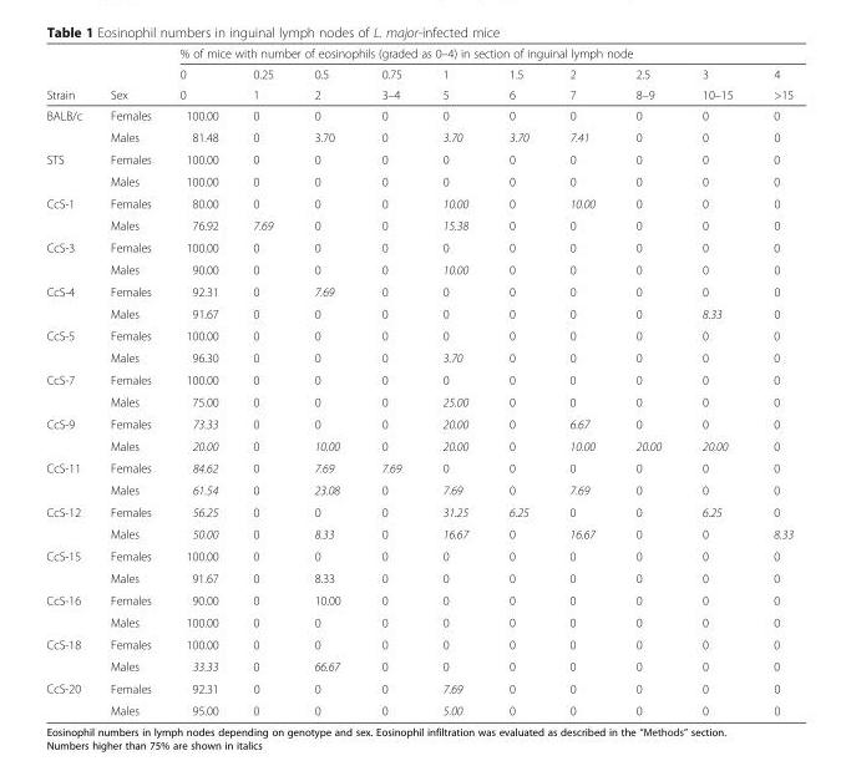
<table><thead><tr><td rowspan="3">Strain</td><td rowspan="3">Sex</td><td colspan="10">% of mice with number of eosinophils (graded as 0–4) in section of inguinal lymph node</td></tr><tr><td rowspan="2">0 0</td><td rowspan="2">0.25 1</td><td rowspan="2">0.5 2</td><td rowspan="2">0.75 3–4</td><td rowspan="2">1 5</td><td rowspan="2">1.5 6</td><td rowspan="2">2 7</td><td rowspan="2">2.5 8–9</td><td rowspan="2">3 10–15</td><td rowspan="2">4 &gt;15</td></tr><tr></tr></thead><tbody><tr><td rowspan="2">BALB/c</td><td>Females</td><td>100.00</td><td>0</td><td>0</td><td>0</td><td>0</td><td>0</td><td>0</td><td>0</td><td>0</td><td>0</td></tr><tr><td>Males</td><td>81.48</td><td>0</td><td>3.70</td><td>0</td><td>3.70</td><td>3.70</td><td>7.41</td><td>0</td><td>0</td><td>0</td></tr><tr><td rowspan="2">STS</td><td>Females</td><td>100.00</td><td>0</td><td>0</td><td>0</td><td>0</td><td>0</td><td>0</td><td>0</td><td>0</td><td>0</td></tr><tr><td>Males</td><td>100.00</td><td>0</td><td>0</td><td>0</td><td>0</td><td>0</td><td>0</td><td>0</td><td>0</td><td>0</td></tr><tr><td rowspan="2">CcS-1</td><td>Females</td><td>80.00</td><td>0</td><td>0</td><td>0</td><td>10.00</td><td>0</td><td>10.00</td><td>0</td><td>0</td><td>0</td></tr><tr><td>Males</td><td>76.92</td><td>7.69</td><td>0</td><td>0</td><td>15.38</td><td>0</td><td>0</td><td>0</td><td>0</td><td>0</td></tr><tr><td rowspan="2">CcS-3</td><td>Females</td><td>100.00</td><td>0</td><td>0</td><td>0</td><td>0</td><td>0</td><td>0</td><td>0</td><td>0</td><td>0</td></tr><tr><td>Males</td><td>90.00</td><td>0</td><td>0</td><td>0</td><td>10.00</td><td>0</td><td>0</td><td>0</td><td>0</td><td>0</td></tr><tr><td rowspan="2">CcS-4</td><td>Females</td><td>92.31</td><td>0</td><td>7.69</td><td>0</td><td>0</td><td>0</td><td>0</td><td>0</td><td>0</td><td>0</td></tr><tr><td>Males</td><td>91.67</td><td>0</td><td>0</td><td>0</td><td>0</td><td>0</td><td>0</td><td>0</td><td>8.33</td><td>0</td></tr><tr><td rowspan="2">CcS-5</td><td>Females</td><td>100.00</td><td>0</td><td>0</td><td>0</td><td>0</td><td>0</td><td>0</td><td>0</td><td>0</td><td>0</td></tr><tr><td>Males</td><td>96.30</td><td>0</td><td>0</td><td>0</td><td>3.70</td><td>0</td><td>0</td><td>0</td><td>0</td><td>0</td></tr><tr><td rowspan="2">CcS-7</td><td>Females</td><td>100.00</td><td>0</td><td>0</td><td>0</td><td>0</td><td>0</td><td>0</td><td>0</td><td>0</td><td>0</td></tr><tr><td>Males</td><td>75.00</td><td>0</td><td>0</td><td>0</td><td>25.00</td><td>0</td><td>0</td><td>0</td><td>0</td><td>0</td></tr><tr><td rowspan="2">CcS-9</td><td>Females</td><td>73.33</td><td>0</td><td>0</td><td>0</td><td>20.00</td><td>0</td><td>6.67</td><td>0</td><td>0</td><td>0</td></tr><tr><td>Males</td><td>20.00</td><td>0</td><td>10.00</td><td>0</td><td>20.00</td><td>0</td><td>10.00</td><td>20.00</td><td>20.00</td><td>0</td></tr><tr><td rowspan="2">CcS-11</td><td>Females</td><td>84.62</td><td>0</td><td>7.69</td><td>7.69</td><td>0</td><td>0</td><td>0</td><td>0</td><td>0</td><td>0</td></tr><tr><td>Males</td><td>61.54</td><td>0</td><td>23.08</td><td>0</td><td>7.69</td><td>0</td><td>7.69</td><td>0</td><td>0</td><td>0</td></tr><tr><td rowspan="2">CcS-12</td><td>Females</td><td>56.25</td><td>0</td><td>0</td><td>0</td><td>31.25</td><td>6.25</td><td>0</td><td>0</td><td>6.25</td><td>0</td></tr><tr><td>Males</td><td>50.00</td><td>0</td><td>8.33</td><td>0</td><td>16.67</td><td>0</td><td>16.67</td><td>0</td><td>0</td><td>8.33</td></tr><tr><td rowspan="2">CcS-15</td><td>Females</td><td>100.00</td><td>0</td><td>0</td><td>0</td><td>0</td><td>0</td><td>0</td><td>0</td><td>0</td><td>0</td></tr><tr><td>Males</td><td>91.67</td><td>0</td><td>8.33</td><td>0</td><td>0</td><td>0</td><td>0</td><td>0</td><td>0</td><td>0</td></tr><tr><td rowspan="2">CcS-16</td><td>Females</td><td>90.00</td><td>0</td><td>10.00</td><td>0</td><td>0</td><td>0</td><td>0</td><td>0</td><td>0</td><td>0</td></tr><tr><td>Males</td><td>100.00</td><td>0</td><td>0</td><td>0</td><td>0</td><td>0</td><td>0</td><td>0</td><td>0</td><td>0</td></tr><tr><td rowspan="2">CcS-18</td><td>Females</td><td>100.00</td><td>0</td><td>0</td><td>0</td><td>0</td><td>0</td><td>0</td><td>0</td><td>0</td><td>0</td></tr><tr><td>Males</td><td>33.33</td><td>0</td><td>66.67</td><td>0</td><td>0</td><td>0</td><td>0</td><td>0</td><td>0</td><td>0</td></tr><tr><td rowspan="2">CcS-20</td><td>Females</td><td>92.31</td><td>0</td><td>0</td><td>0</td><td>7.69</td><td>0</td><td>0</td><td>0</td><td>0</td><td>0</td></tr><tr><td>Males</td><td>95.00</td><td>0</td><td>0</td><td>0</td><td>5.00</td><td>0</td><td>0</td><td>0</td><td>0</td><td>0</td></tr></tbody></table>